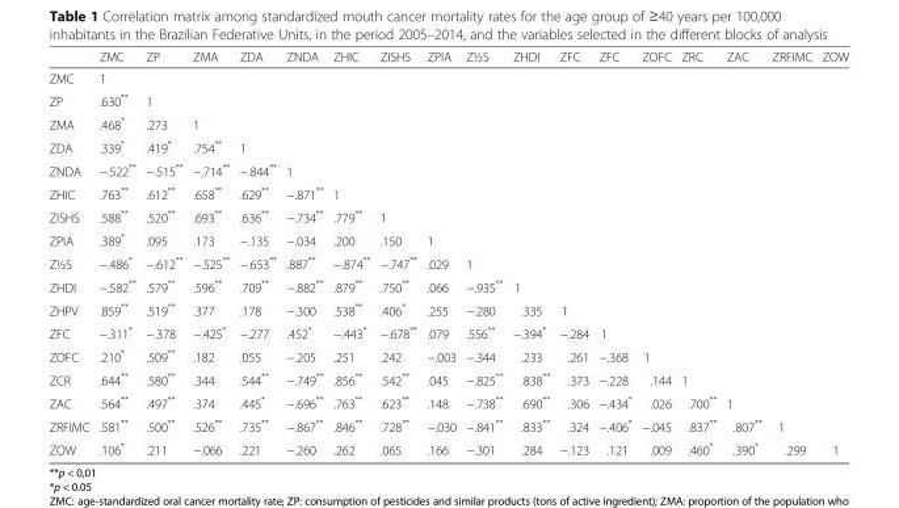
<table><thead><tr><td></td><td>ZMC</td><td>ZP</td><td>ZMA</td><td>ZDA</td><td>ZNDA</td><td>ZHIC</td><td>ZISHS</td><td>ZPIA</td><td>Z½S</td><td>ZHDI</td><td>ZFC</td><td>ZFC</td><td>ZOFC</td><td>ZRC</td><td>ZAC</td><td>ZRFIMC</td><td>ZOW</td></tr></thead><tbody><tr><td>ZMC</td><td>1</td><td></td><td></td><td></td><td></td><td></td><td></td><td></td><td></td><td></td><td></td><td></td><td></td><td></td><td></td><td></td><td></td></tr><tr><td>ZP</td><td>.630**</td><td>1</td><td></td><td></td><td></td><td></td><td></td><td></td><td></td><td></td><td></td><td></td><td></td><td></td><td></td><td></td><td></td></tr><tr><td>ZMA</td><td>.468*</td><td>.273</td><td>1</td><td></td><td></td><td></td><td></td><td></td><td></td><td></td><td></td><td></td><td></td><td></td><td></td><td></td><td></td></tr><tr><td>ZDA</td><td>.339*</td><td>.419*</td><td>.754**</td><td>1</td><td></td><td></td><td></td><td></td><td></td><td></td><td></td><td></td><td></td><td></td><td></td><td></td><td></td></tr><tr><td>ZNDA</td><td>−.522**</td><td>−.515**</td><td>−.714**</td><td>−.844**</td><td>1</td><td></td><td></td><td></td><td></td><td></td><td></td><td></td><td></td><td></td><td></td><td></td><td></td></tr><tr><td>ZHIC</td><td>.763**</td><td>.612**</td><td>.658**</td><td>.629**</td><td>−.871**</td><td>1</td><td></td><td></td><td></td><td></td><td></td><td></td><td></td><td></td><td></td><td></td><td></td></tr><tr><td>ZISHS</td><td>.588**</td><td>.520**</td><td>.693**</td><td>.636**</td><td>−.734**</td><td>.779**</td><td>1</td><td></td><td></td><td></td><td></td><td></td><td></td><td></td><td></td><td></td><td></td></tr><tr><td>ZPIA</td><td>.389*</td><td>.095</td><td>.173</td><td>−.135</td><td>−.034</td><td>.200</td><td>.150</td><td>1</td><td></td><td></td><td></td><td></td><td></td><td></td><td></td><td></td><td></td></tr><tr><td>Z½S</td><td>−.486*</td><td>−.612**</td><td>−.525**</td><td>−.653**</td><td>.887**</td><td>−.874**</td><td>−.747**</td><td>.029</td><td>1</td><td></td><td></td><td></td><td></td><td></td><td></td><td></td><td></td></tr><tr><td>ZHDI</td><td>−.582**</td><td>.579**</td><td>.596**</td><td>.709**</td><td>−.882**</td><td>.879**</td><td>.750**</td><td>.066</td><td>−.935**</td><td>1</td><td></td><td></td><td></td><td></td><td></td><td></td><td></td></tr><tr><td>ZHPV</td><td>.859**</td><td>.519**</td><td>.377</td><td>.178</td><td>−.300</td><td>.538**</td><td>.406*</td><td>.255</td><td>−.280</td><td>.335</td><td>1</td><td></td><td></td><td></td><td></td><td></td><td></td></tr><tr><td>ZFC</td><td>−.311*</td><td>−.378</td><td>−.425*</td><td>−.277</td><td>.452*</td><td>−.443*</td><td>−.678**</td><td>.079</td><td>.556**</td><td>−.394*</td><td>−.284</td><td>1</td><td></td><td></td><td></td><td></td><td></td></tr><tr><td>ZOFC</td><td>.210*</td><td>.509**</td><td>.182</td><td>.055</td><td>−.205</td><td>.251</td><td>.242</td><td>−.003</td><td>−.344</td><td>.233</td><td>.261</td><td>−.368</td><td>1</td><td></td><td></td><td></td><td></td></tr><tr><td>ZCR</td><td>.644**</td><td>.580**</td><td>.344</td><td>.544**</td><td>−.749**</td><td>.856**</td><td>.542**</td><td>.045</td><td>−.825**</td><td>.838**</td><td>.373</td><td>−.228</td><td>.144</td><td>1</td><td></td><td></td><td></td></tr><tr><td>ZAC</td><td>.564**</td><td>.497**</td><td>.374</td><td>.445*</td><td>−.696**</td><td>.763**</td><td>.623**</td><td>.148</td><td>−.738**</td><td>.690**</td><td>.306</td><td>−.434*</td><td>.026</td><td>.700**</td><td>1</td><td></td><td></td></tr><tr><td>ZRFIMC</td><td>.581**</td><td>.500**</td><td>.526**</td><td>.735**</td><td>−.867**</td><td>.846**</td><td>.728**</td><td>−.030</td><td>−.841**</td><td>.833**</td><td>.324</td><td>−.406*</td><td>−.045</td><td>.837**</td><td>.807**</td><td>1</td><td></td></tr><tr><td>ZOW</td><td>.106*</td><td>.211</td><td>−.066</td><td>.221</td><td>−.260</td><td>.262</td><td>.065</td><td>.166</td><td>−.301</td><td>.284</td><td>−.123</td><td>.121</td><td>.009</td><td>.460*</td><td>.390*</td><td>.299</td><td>1</td></tr></tbody></table>